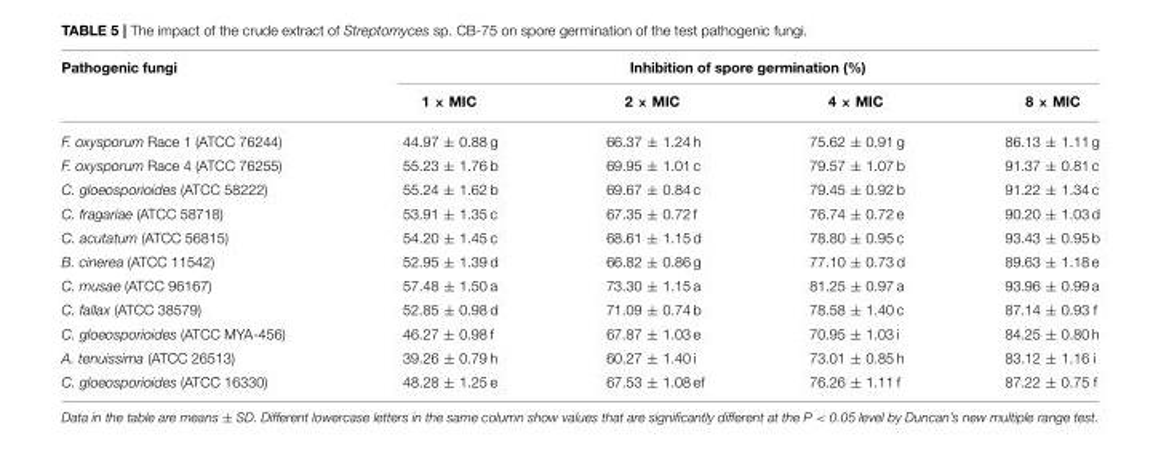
<table><thead><tr><td rowspan="2">Pathogenic fungi</td><td colspan="4">Inhibition of spore germination (%)</td></tr><tr><td>1 × MIC</td><td>2 × MIC</td><td>4 × MIC</td><td>8 × MIC</td></tr></thead><tbody><tr><td>F. oxysporum Race 1 (ATCC 76244)</td><td>44.97 ± 0.88 g</td><td>66.37 ± 1.24 h</td><td>75.62 ± 0.91 g</td><td>86.13 ± 1.11 g</td></tr><tr><td>F. oxysporum Race 4 (ATCC 76255)</td><td>55.23 ± 1.76 b</td><td>69.95 ± 1.01 c</td><td>79.57 ± 1.07 b</td><td>91.37 ± 0.81 c</td></tr><tr><td>C. gloeosporioides (ATCC 58222)</td><td>55.24 ± 1.62 b</td><td>69.67 ± 0.84 c</td><td>79.45 ± 0.92 b</td><td>91.22 ± 1.34 c</td></tr><tr><td>C. fragariae (ATCC 58718)</td><td>53.91 ± 1.35 c</td><td>67.35 ± 0.72 f</td><td>76.74 ± 0.72 e</td><td>90.20 ± 1.03 d</td></tr><tr><td>C. acutatum (ATCC 56815)</td><td>54.20 ± 1.45 c</td><td>68.61 ± 1.15 d</td><td>78.80 ± 0.95 c</td><td>93.43 ± 0.95 b</td></tr><tr><td>B. cinerea (ATCC 11542)</td><td>52.95 ± 1.39 d</td><td>66.82 ± 0.86 g</td><td>77.10 ± 0.73 d</td><td>89.63 ± 1.18 e</td></tr><tr><td>C. musae (ATCC 96167)</td><td>57.48 ± 1.50 a</td><td>73.30 ± 1.15 a</td><td>81.25 ± 0.97 a</td><td>93.96 ± 0.99 a</td></tr><tr><td>C. fallax (ATCC 38579)</td><td>52.85 ± 0.98 d</td><td>71.09 ± 0.74 b</td><td>78.58 ± 1.40 c</td><td>87.14 ± 0.93 f</td></tr><tr><td>C. gloeosporioides (ATCC MYA-456)</td><td>46.27 ± 0.98 f</td><td>67.87 ± 1.03 e</td><td>70.95 ± 1.03 i</td><td>84.25 ± 0.80 h</td></tr><tr><td>A. tenuissima (ATCC 26513)</td><td>39.26 ± 0.79 h</td><td>60.27 ± 1.40 i</td><td>73.01 ± 0.85 h</td><td>83.12 ± 1.16 i</td></tr><tr><td>C. gloeosporioides (ATCC 16330)</td><td>48.28 ± 1.25 e</td><td>67.53 ± 1.08 ef</td><td>76.26 ± 1.11 f</td><td>87.22 ± 0.75 f</td></tr></tbody></table>